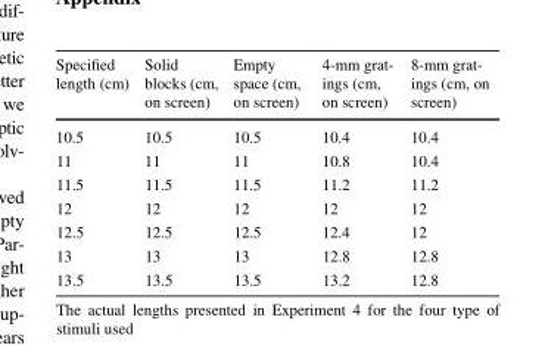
<table><thead><tr><td>Specified length (cm)</td><td>Solid blocks (cm, on screen)</td><td>Empty space (cm, on screen)</td><td>4-mm grat- ings (cm, on screen)</td><td>8-mm grat- ings (cm, on screen)</td></tr></thead><tbody><tr><td>10.5</td><td>10.5</td><td>10.5</td><td>10.4</td><td>10.4</td></tr><tr><td>11</td><td>11</td><td>11</td><td>10.8</td><td>10.4</td></tr><tr><td>11.5</td><td>11.5</td><td>11.5</td><td>11.2</td><td>11.2</td></tr><tr><td>12</td><td>12</td><td>12</td><td>12</td><td>12</td></tr><tr><td>12.5</td><td>12.5</td><td>12.5</td><td>12.4</td><td>12</td></tr><tr><td>13</td><td>13</td><td>13</td><td>12.8</td><td>12.8</td></tr><tr><td>13.5</td><td>13.5</td><td>13.5</td><td>13.2</td><td>12.8</td></tr></tbody></table>